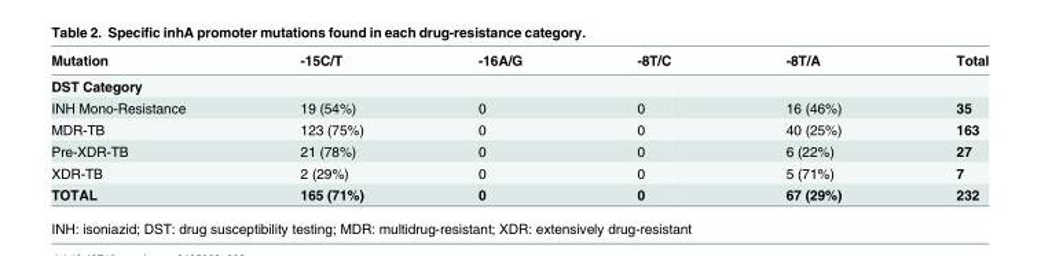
<table><thead><tr><td>Mutation</td><td>-15C/T</td><td>-16A/G</td><td>-8T/C</td><td>-8T/A</td><td>Total</td></tr></thead><tbody><tr><td colspan="6">DST Category</td></tr><tr><td>INH Mono-Resistance</td><td>19 (54%)</td><td>0</td><td>0</td><td>16 (46%)</td><td>35</td></tr><tr><td>MDR-TB</td><td>123 (75%)</td><td>0</td><td>0</td><td>40 (25%)</td><td>163</td></tr><tr><td>Pre-XDR-TB</td><td>21 (78%)</td><td>0</td><td>0</td><td>6 (22%)</td><td>27</td></tr><tr><td>XDR-TB</td><td>2 (29%)</td><td>0</td><td>0</td><td>5 (71%)</td><td>7</td></tr><tr><td>TOTAL</td><td>165 (71%)</td><td>0</td><td>0</td><td>67 (29%)</td><td>232</td></tr></tbody></table>